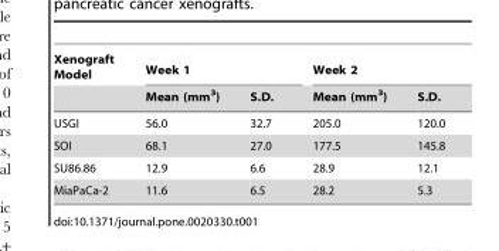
<table><thead><tr><td rowspan="2">Xenograft Model</td><td colspan="2">Week 1</td><td colspan="2">Week 2</td></tr><tr><td>Mean (mm<sup>3</sup>)</td><td>S.D.</td><td>Mean (mm<sup>3</sup>)</td><td>S.D.</td></tr></thead><tbody><tr><td>USGI</td><td>56.0</td><td>32.7</td><td>205.0</td><td>120.0</td></tr><tr><td>SOI</td><td>68.1</td><td>27.0</td><td>177.5</td><td>145.8</td></tr><tr><td>SU86.86</td><td>12.9</td><td>6.6</td><td>28.9</td><td>12.1</td></tr><tr><td>MiaPaCa-2</td><td>11.6</td><td>6.5</td><td>28.2</td><td>5.3</td></tr></tbody></table>